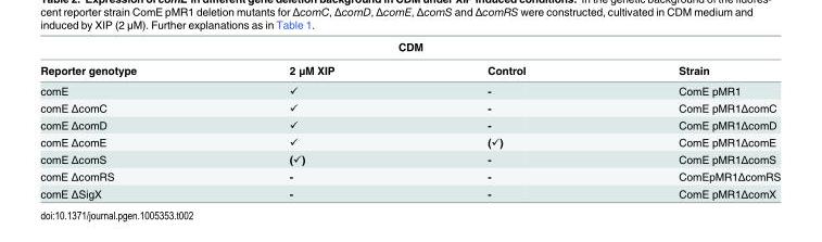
<table><thead><tr><td colspan="4">CDM</td></tr><tr><td>Reporter genotype</td><td>2 μM XIP</td><td>Control</td><td>Strain</td></tr></thead><tbody><tr><td>comE</td><td>✓</td><td>-</td><td>ComE pMR1</td></tr><tr><td>comE ΔcomC</td><td>✓</td><td>-</td><td>ComE pMR1ΔcomC</td></tr><tr><td>comE ΔcomD</td><td>✓</td><td>-</td><td>ComE pMR1ΔcomD</td></tr><tr><td>comE ΔcomE</td><td>✓</td><td>(✓)</td><td>ComE pMR1ΔcomE</td></tr><tr><td>comE ΔcomS</td><td>(✓)</td><td>-</td><td>ComE pMR1ΔcomS</td></tr><tr><td>comE ΔcomRS</td><td>-</td><td>-</td><td>ComEpMR1ΔcomRS</td></tr><tr><td>comE ΔSigX</td><td>-</td><td>-</td><td>ComE pMR1ΔcomX</td></tr></tbody></table>